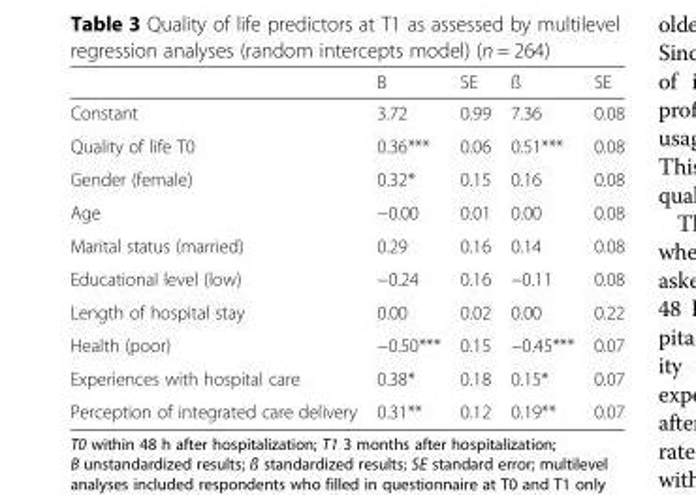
<table><thead><tr><td></td><td>B</td><td>SE</td><td>ß</td><td>SE</td></tr></thead><tbody><tr><td>Constant</td><td>3.72</td><td>0.99</td><td>7.36</td><td>0.08</td></tr><tr><td>Quality of life T0</td><td>0.36***</td><td>0.06</td><td>0.51***</td><td>0.08</td></tr><tr><td>Gender (female)</td><td>0.32*</td><td>0.15</td><td>0.16</td><td>0.08</td></tr><tr><td>Age</td><td>−0.00</td><td>0.01</td><td>0.00</td><td>0.08</td></tr><tr><td>Marital status (married)</td><td>0.29</td><td>0.16</td><td>0.14</td><td>0.08</td></tr><tr><td>Educational level (low)</td><td>−0.24</td><td>0.16</td><td>−0.11</td><td>0.08</td></tr><tr><td>Length of hospital stay</td><td>0.00</td><td>0.02</td><td>0.00</td><td>0.22</td></tr><tr><td>Health (poor)</td><td>−0.50***</td><td>0.15</td><td>−0.45***</td><td>0.07</td></tr><tr><td>Experiences with hospital care</td><td>0.38*</td><td>0.18</td><td>0.15*</td><td>0.07</td></tr><tr><td>Perception of integrated care delivery</td><td>0.31**</td><td>0.12</td><td>0.19**</td><td>0.07</td></tr></tbody></table>